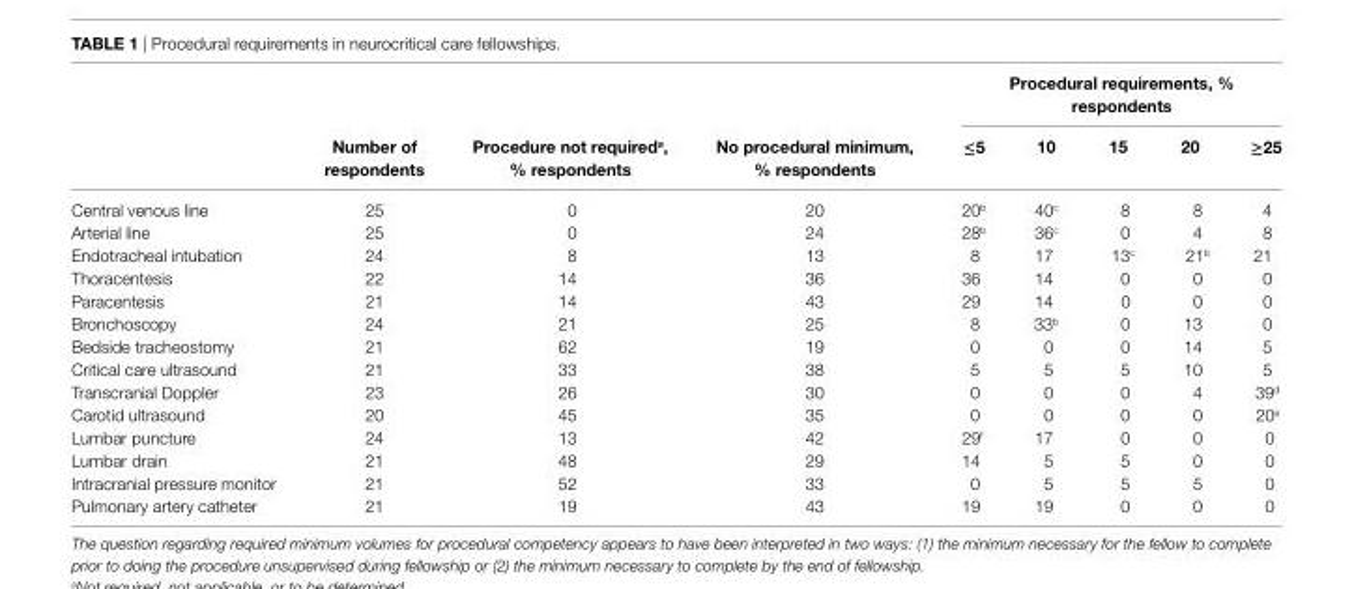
<table><thead><tr><td rowspan="2"></td><td rowspan="2">number of respondents</td><td rowspan="2">Procedure not required<sup>a</sup>, % respondents</td><td rowspan="2">no procedural minimum, % respondents</td><td colspan="5">Procedural requirements, % respondents</td></tr><tr><td>≤5</td><td>10</td><td>15</td><td>20</td><td>≥25</td></tr></thead><tbody><tr><td>Central venous line</td><td>25</td><td>0</td><td>20</td><td>20<sup>b</sup></td><td>40<sup>c</sup></td><td>8</td><td>8</td><td>4</td></tr><tr><td>Arterial line</td><td>25</td><td>0</td><td>24</td><td>28<sup>b</sup></td><td>36<sup>c</sup></td><td>0</td><td>4</td><td>8</td></tr><tr><td>Endotracheal intubation</td><td>24</td><td>8</td><td>13</td><td>8</td><td>17</td><td>13<sup>c</sup></td><td>21<sup>b</sup></td><td>21</td></tr><tr><td>Thoracentesis</td><td>22</td><td>14</td><td>36</td><td>36</td><td>14</td><td>0</td><td>0</td><td>0</td></tr><tr><td>Paracentesis</td><td>21</td><td>14</td><td>43</td><td>29</td><td>14</td><td>0</td><td>0</td><td>0</td></tr><tr><td>Bronchoscopy</td><td>24</td><td>21</td><td>25</td><td>8</td><td>33<sup>b</sup></td><td>0</td><td>13</td><td>0</td></tr><tr><td>Bedside tracheostomy</td><td>21</td><td>62</td><td>19</td><td>0</td><td>0</td><td>0</td><td>14</td><td>5</td></tr><tr><td>Critical care ultrasound</td><td>21</td><td>33</td><td>38</td><td>5</td><td>5</td><td>5</td><td>10</td><td>5</td></tr><tr><td>Transcranial Doppler</td><td>23</td><td>26</td><td>30</td><td>0</td><td>0</td><td>0</td><td>4</td><td>39<sup>d</sup></td></tr><tr><td>Carotid ultrasound</td><td>20</td><td>45</td><td>35</td><td>0</td><td>0</td><td>0</td><td>0</td><td>20<sup>e</sup></td></tr><tr><td>Lumbar puncture</td><td>24</td><td>13</td><td>42</td><td>29<sup>f</sup></td><td>17</td><td>0</td><td>0</td><td>0</td></tr><tr><td>Lumbar drain</td><td>21</td><td>48</td><td>29</td><td>14</td><td>5</td><td>5</td><td>0</td><td>0</td></tr><tr><td>Intracranial pressure monitor</td><td>21</td><td>52</td><td>33</td><td>0</td><td>5</td><td>5</td><td>5</td><td>0</td></tr><tr><td>Pulmonary artery catheter</td><td>21</td><td>19</td><td>43</td><td>19</td><td>19</td><td>0</td><td>0</td><td>0</td></tr></tbody></table>